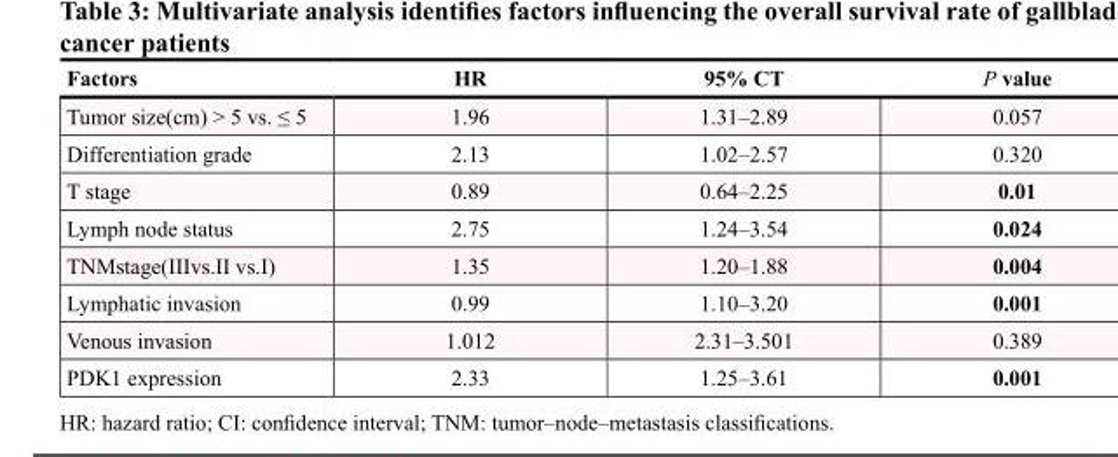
<table><thead><tr><td>Factors</td><td>HR</td><td>95% CT</td><td>P value</td></tr></thead><tbody><tr><td>Tumor size(cm) &gt; 5 vs. ≤ 5</td><td>1.96</td><td>1.31–2.89</td><td>0.057</td></tr><tr><td>Differentiation grade</td><td>2.13</td><td>1.02–2.57</td><td>0.320</td></tr><tr><td>T stage</td><td>0.89</td><td>0.64–2.25</td><td>0.01</td></tr><tr><td>Lymph node status</td><td>2.75</td><td>1.24–3.54</td><td>0.024</td></tr><tr><td>TNMstage(IIIvs.II vs.I)</td><td>1.35</td><td>1.20–1.88</td><td>0.004</td></tr><tr><td>Lymphatic invasion</td><td>0.99</td><td>1.10–3.20</td><td>0.001</td></tr><tr><td>Venous invasion</td><td>1.012</td><td>2.31–3.501</td><td>0.389</td></tr><tr><td>PDK1 expression</td><td>2.33</td><td>1.25–3.61</td><td>0.001</td></tr></tbody></table>